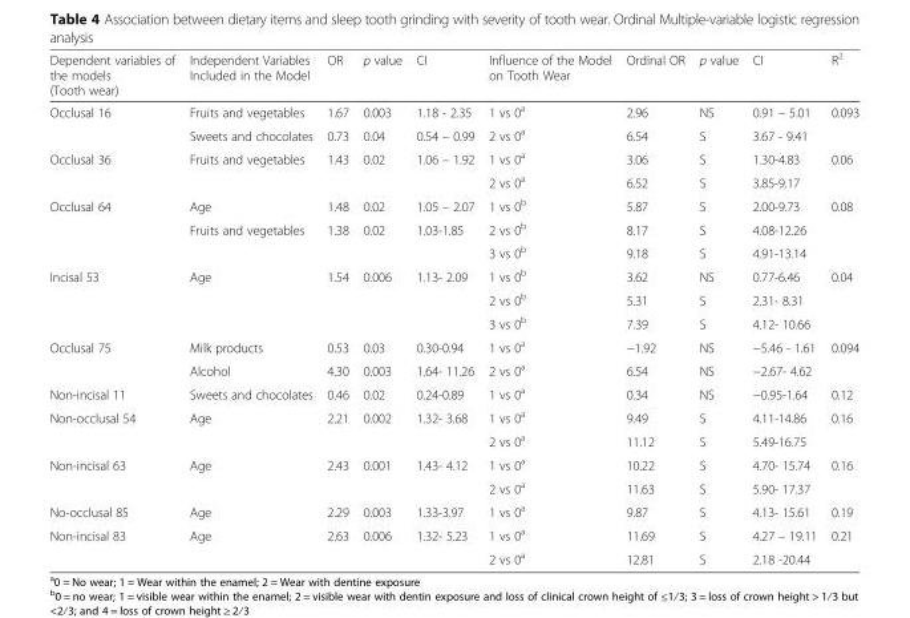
<table><thead><tr><td>Dependent variables of the models (Tooth wear)</td><td>Independent Variables Included in the Model</td><td>OR</td><td>p value</td><td>CI</td><td>Influence of the Model on Tooth Wear</td><td>Ordinal OR</td><td>p value</td><td>CI</td><td>R<sup>2</sup></td></tr></thead><tbody><tr><td rowspan="2">Occlusal 16</td><td>Fruits and vegetables</td><td>1.67</td><td>0.003</td><td>1.18 - 2.35</td><td>1 vs 0<sup>a</sup></td><td>2.96</td><td>NS</td><td>0.91 – 5.01</td><td rowspan="2">0.093</td></tr><tr><td>Sweets and chocolates</td><td>0.73</td><td>0.04</td><td>0.54 – 0.99</td><td>2 vs 0<sup>a</sup></td><td>6.54</td><td>S</td><td>3.67 - 9.41</td></tr><tr><td rowspan="2">Occlusal 36</td><td rowspan="2">Fruits and vegetables</td><td rowspan="2">1.43</td><td rowspan="2">0.02</td><td rowspan="2">1.06 – 1.92</td><td>1 vs 0<sup>a</sup></td><td>3.06</td><td>S</td><td>1.30-4.83</td><td rowspan="2">0.06</td></tr><tr><td>2 vs 0<sup>a</sup></td><td>6.52</td><td>S</td><td>3.85-9.17</td></tr><tr><td rowspan="3">Occlusal 64</td><td>Age</td><td>1.48</td><td>0.02</td><td>1.05 – 2.07</td><td>1 vs 0<sup>b</sup></td><td>5.87</td><td>S</td><td>2.00-9.73</td><td rowspan="3">0.08</td></tr><tr><td rowspan="2">Fruits and vegetables</td><td rowspan="2">1.38</td><td rowspan="2">0.02</td><td rowspan="2">1.03-1.85</td><td>2 vs 0<sup>b</sup></td><td>8.17</td><td>S</td><td>4.08-12.26</td></tr><tr><td>3 vs 0<sup>b</sup></td><td>9.18</td><td>S</td><td>4.91-13.14</td></tr><tr><td rowspan="3">Incisal 53</td><td rowspan="3">Age</td><td rowspan="3">1.54</td><td rowspan="3">0.006</td><td rowspan="3">1.13- 2.09</td><td>1 vs 0<sup>b</sup></td><td>3.62</td><td>NS</td><td>0.77-6.46</td><td rowspan="3">0.04</td></tr><tr><td>2 vs 0<sup>b</sup></td><td>5.31</td><td>S</td><td>2.31- 8.31</td></tr><tr><td>3 vs 0<sup>b</sup></td><td>7.39</td><td>S</td><td>4.12- 10.66</td></tr><tr><td rowspan="2">Occlusal 75</td><td>Milk products</td><td>0.53</td><td>0.03</td><td>0.30-0.94</td><td>1 vs 0<sup>a</sup></td><td>−1.92</td><td>NS</td><td>−5.46 - 1.61</td><td rowspan="2">0.094</td></tr><tr><td>Alcohol</td><td>4.30</td><td>0.003</td><td>1.64- 11.26</td><td>2 vs 0<sup>a</sup></td><td>6.54</td><td>NS</td><td>−2.67- 4.62</td></tr><tr><td>Non-incisal 11</td><td>Sweets and chocolates</td><td>0.46</td><td>0.02</td><td>0.24-0.89</td><td>1 vs 0<sup>a</sup></td><td>0.34</td><td>NS</td><td>−0.95-1.64</td><td>0.12</td></tr><tr><td rowspan="2">Non-occlusal 54</td><td rowspan="2">Age</td><td rowspan="2">2.21</td><td rowspan="2">0.002</td><td rowspan="2">1.32- 3.68</td><td>1 vs 0<sup>a</sup></td><td>9.49</td><td>S</td><td>4.11-14.86</td><td rowspan="2">0.16</td></tr><tr><td>2 vs 0<sup>a</sup></td><td>11.12</td><td>S</td><td>5.49-16.75</td></tr><tr><td rowspan="2">Non-incisal 63</td><td rowspan="2">Age</td><td rowspan="2">2.43</td><td rowspan="2">0.001</td><td rowspan="2">1.43- 4.12</td><td>1 vs 0<sup>a</sup></td><td>10.22</td><td>S</td><td>4.70- 15.74</td><td rowspan="2">0.16</td></tr><tr><td>2 vs 0<sup>a</sup></td><td>11.63</td><td>S</td><td>5.90- 17.37</td></tr><tr><td>No-occlusal 85</td><td>Age</td><td>2.29</td><td>0.003</td><td>1.33-3.97</td><td>1 vs 0<sup>a</sup></td><td>9.87</td><td>S</td><td>4.13- 15.61</td><td>0.19</td></tr><tr><td rowspan="2">Non-incisal 83</td><td rowspan="2">Age</td><td rowspan="2">2.63</td><td rowspan="2">0.006</td><td rowspan="2">1.32- 5.23</td><td>1 vs 0<sup>a</sup></td><td>11.69</td><td>S</td><td>4.27 – 19.11</td><td rowspan="2">0.21</td></tr><tr><td>2 vs 0<sup>a</sup></td><td>12.81</td><td>S</td><td>2.18 -20.44</td></tr></tbody></table>